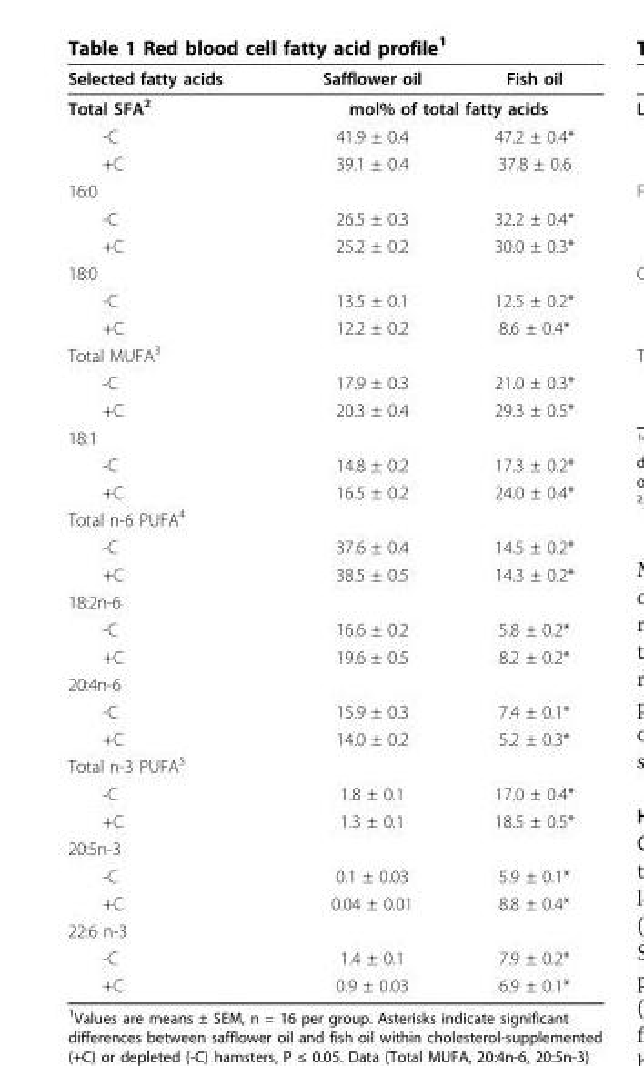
<table><thead><tr><td>Selected fatty acids</td><td>Safflower oil</td><td>Fish oil</td></tr></thead><tbody><tr><td>Total SFA<sup>2</sup></td><td colspan="2">mol% of total fatty acids</td></tr><tr><td>-C</td><td>41.9 ± 0.4</td><td>47.2 ± 0.4*</td></tr><tr><td>+C</td><td>39.1 ± 0.4</td><td>37.8 ± 0.6</td></tr><tr><td colspan="3">16:0</td></tr><tr><td>-C</td><td>26.5 ± 0.3</td><td>32.2 ± 0.4*</td></tr><tr><td>+C</td><td>25.2 ± 0.2</td><td>30.0 ± 0.3*</td></tr><tr><td colspan="3">18:0</td></tr><tr><td>-C</td><td>13.5 ± 0.1</td><td>12.5 ± 0.2*</td></tr><tr><td>+C</td><td>12.2 ± 0.2</td><td>8.6 ± 0.4*</td></tr><tr><td colspan="3">Total MUFA<sup>3</sup></td></tr><tr><td>-C</td><td>17.9 ± 0.3</td><td>21.0 ± 0.3*</td></tr><tr><td>+C</td><td>20.3 ± 0.4</td><td>29.3 ± 0.5*</td></tr><tr><td colspan="3">18:1</td></tr><tr><td>-C</td><td>14.8 ± 0.2</td><td>17.3 ± 0.2*</td></tr><tr><td>+C</td><td>16.5 ± 0.2</td><td>24.0 ± 0.4*</td></tr><tr><td colspan="3">Total n-6 PUFA<sup>4</sup></td></tr><tr><td>-C</td><td>37.6 ± 0.4</td><td>14.5 ± 0.2*</td></tr><tr><td>+C</td><td>38.5 ± 0.5</td><td>14.3 ± 0.2*</td></tr><tr><td colspan="3">18:2n-6</td></tr><tr><td>-C</td><td>16.6 ± 0.2</td><td>5.8 ± 0.2*</td></tr><tr><td>+C</td><td>19.6 ± 0.5</td><td>8.2 ± 0.2*</td></tr><tr><td colspan="3">20:4n-6</td></tr><tr><td>-C</td><td>15.9 ± 0.3</td><td>7.4 ± 0.1*</td></tr><tr><td>+C</td><td>14.0 ± 0.2</td><td>5.2 ± 0.3*</td></tr><tr><td colspan="3">Total n-3 PUFA<sup>5</sup></td></tr><tr><td>-C</td><td>1.8 ± 0.1</td><td>17.0 ± 0.4*</td></tr><tr><td>+C</td><td>1.3 ± 0.1</td><td>18.5 ± 0.5*</td></tr><tr><td colspan="3">20:5n-3</td></tr><tr><td>-C</td><td>0.1 ± 0.03</td><td>5.9 ± 0.1*</td></tr><tr><td>+C</td><td>0.04 ± 0.01</td><td>8.8 ± 0.4*</td></tr><tr><td colspan="3">22:6 n-3</td></tr><tr><td>-C</td><td>1.4 ± 0.1</td><td>7.9 ± 0.2*</td></tr><tr><td>+C</td><td>0.9 ± 0.03</td><td>6.9 ± 0.1*</td></tr></tbody></table>